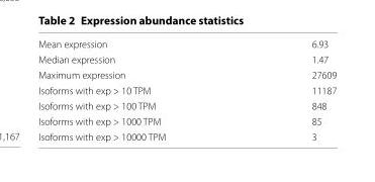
<table><tbody><tr><td>Mean expression</td><td>6.93</td></tr><tr><td>Median expression</td><td>1.47</td></tr><tr><td>Maximum expression</td><td>27609</td></tr><tr><td>Isoforms with exp &gt; 10 TPM</td><td>11187</td></tr><tr><td>Isoforms with exp &gt; 100 TPM</td><td>848</td></tr><tr><td>Isoforms with exp &gt; 1000 TPM</td><td>85</td></tr><tr><td>Isoforms with exp &gt; 10000 TPM</td><td>3</td></tr></tbody></table>